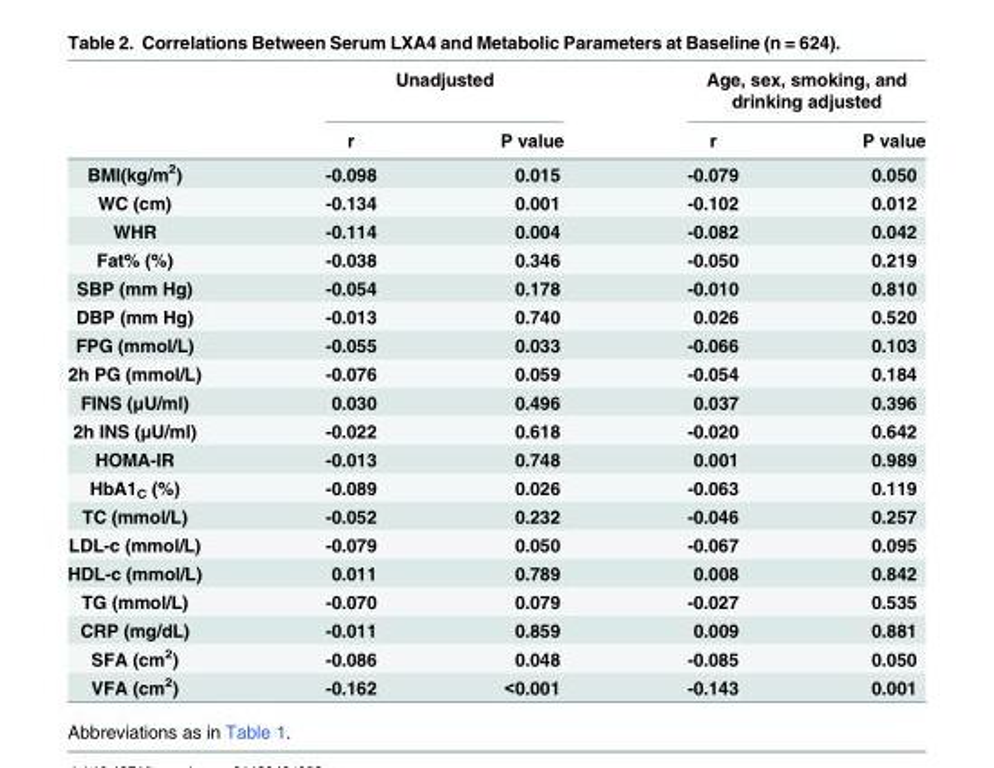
<table><thead><tr><td rowspan="2"></td><td colspan="2">Unadjusted</td><td colspan="2">Age, sex, smoking, and drinking adjusted</td></tr><tr><td>r</td><td>P value</td><td>r</td><td>P value</td></tr></thead><tbody><tr><td>BMI(kg/m<sup>2</sup>)</td><td>-0.098</td><td>0.015</td><td>-0.079</td><td>0.050</td></tr><tr><td>WC (cm)</td><td>-0.134</td><td>0.001</td><td>-0.102</td><td>0.012</td></tr><tr><td>WHR</td><td>-0.114</td><td>0.004</td><td>-0.082</td><td>0.042</td></tr><tr><td>Fat% (%)</td><td>-0.038</td><td>0.346</td><td>-0.050</td><td>0.219</td></tr><tr><td>SBP (mm Hg)</td><td>-0.054</td><td>0.178</td><td>-0.010</td><td>0.810</td></tr><tr><td>DBP (mm Hg)</td><td>-0.013</td><td>0.740</td><td>0.026</td><td>0.520</td></tr><tr><td>FPG (mmol/L)</td><td>-0.055</td><td>0.033</td><td>-0.066</td><td>0.103</td></tr><tr><td>2h PG (mmol/L)</td><td>-0.076</td><td>0.059</td><td>-0.054</td><td>0.184</td></tr><tr><td>FINS (μU/ml)</td><td>0.030</td><td>0.496</td><td>0.037</td><td>0.396</td></tr><tr><td>2h INS (μU/ml)</td><td>-0.022</td><td>0.618</td><td>-0.020</td><td>0.642</td></tr><tr><td>HOMA-IR</td><td>-0.013</td><td>0.748</td><td>0.001</td><td>0.989</td></tr><tr><td>HbA1<sub>C</sub> (%)</td><td>-0.089</td><td>0.026</td><td>-0.063</td><td>0.119</td></tr><tr><td>TC (mmol/L)</td><td>-0.052</td><td>0.232</td><td>-0.046</td><td>0.257</td></tr><tr><td>LDL-c (mmol/L)</td><td>-0.079</td><td>0.050</td><td>-0.067</td><td>0.095</td></tr><tr><td>HDL-c (mmol/L)</td><td>0.011</td><td>0.789</td><td>0.008</td><td>0.842</td></tr><tr><td>TG (mmol/L)</td><td>-0.070</td><td>0.079</td><td>-0.027</td><td>0.535</td></tr><tr><td>CRP (mg/dL)</td><td>-0.011</td><td>0.859</td><td>0.009</td><td>0.881</td></tr><tr><td>SFA (cm<sup>2</sup>)</td><td>-0.086</td><td>0.048</td><td>-0.085</td><td>0.050</td></tr><tr><td>VFA (cm<sup>2</sup>)</td><td>-0.162</td><td>&lt;0.001</td><td>-0.143</td><td>0.001</td></tr></tbody></table>